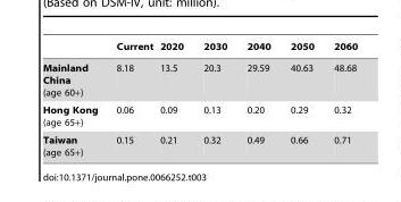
<table><thead><tr><td></td><td>Current</td><td>2020</td><td>2030</td><td>2040</td><td>2050</td><td>2060</td></tr></thead><tbody><tr><td>Mainland China (age 60+)</td><td>8.18</td><td>13.5</td><td>20.3</td><td>29.59</td><td>40.63</td><td>48.68</td></tr><tr><td>Hong Kong (age 65+)</td><td>0.06</td><td>0.09</td><td>0.13</td><td>0.20</td><td>0.29</td><td>0.32</td></tr><tr><td>Taiwan (age 65+)</td><td>0.15</td><td>0.21</td><td>0.32</td><td>0.49</td><td>0.66</td><td>0.71</td></tr></tbody></table>